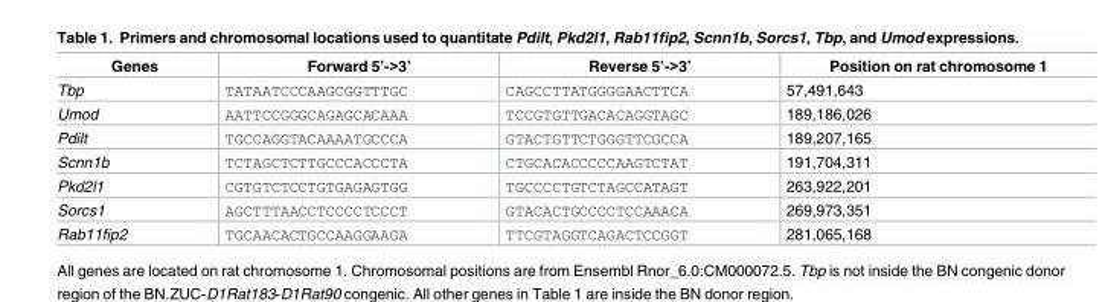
<table><thead><tr><td>Genes</td><td>Forward 5’-&gt;3’</td><td>Reverse 5’-&gt;3’</td><td>Position on rat chromosome 1</td></tr></thead><tbody><tr><td>Tbp</td><td>TATAATCCCAAGCGGTTTGC</td><td>CAGCCTTATGGGGAACTTCA</td><td>57,491,643</td></tr><tr><td>Umod</td><td>AATTCCGGGCAGAGCACAAA</td><td>TCCGTGTTGACACAGGTAGC</td><td>189,186,026</td></tr><tr><td>Pdilt</td><td>TGCCAGGTACAAAATGCCCA</td><td>GTACTGTTCTGGGTTCGCCA</td><td>189,207,165</td></tr><tr><td>Scnn1b</td><td>TCTAGCTCTTGCCCACCCTA</td><td>CTGCACACCCCCAAGTCTAT</td><td>191,704,311</td></tr><tr><td>Pkd2l1</td><td>CGTGTCTCCTGTGAGAGTGG</td><td>TGCCCCTGTCTAGCCATAGT</td><td>263,922,201</td></tr><tr><td>Sorcs1</td><td>AGCTTTAACCTCCCCTCCCT</td><td>GTACACTGCCCCTCCAAACA</td><td>269,973,351</td></tr><tr><td>Rab11fip2</td><td>TGCAACACTGCCAAGGAAGA</td><td>TTCGTAGGTCAGACTCCGGT</td><td>281,065,168</td></tr></tbody></table>